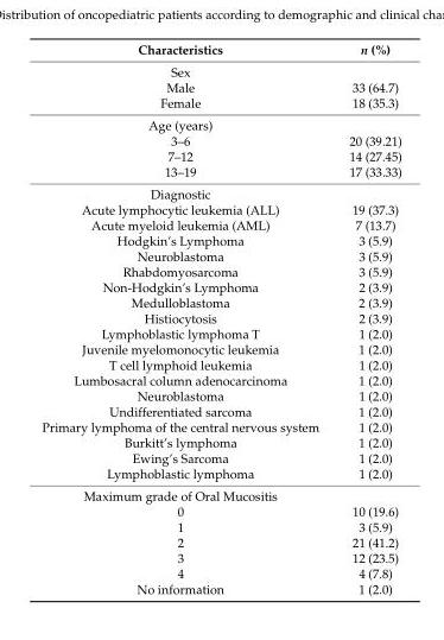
<table><thead><tr><td>Characteristics</td><td>n (%)</td></tr></thead><tbody><tr><td colspan="2">Sex</td></tr><tr><td>Male</td><td>33 (64.7)</td></tr><tr><td>Female</td><td>18 (35.3)</td></tr><tr><td colspan="2">Age (years)</td></tr><tr><td>3–6</td><td>20 (39.21)</td></tr><tr><td>7–12</td><td>14 (27.45)</td></tr><tr><td>13–19</td><td>17 (33.33)</td></tr><tr><td colspan="2">Diagnostic</td></tr><tr><td>Acute lymphocytic leukemia (ALL)</td><td>19 (37.3)</td></tr><tr><td>Acute myeloid leukemia (AML)</td><td>7 (13.7)</td></tr><tr><td>Hodgkin’s Lymphoma</td><td>3 (5.9)</td></tr><tr><td>Neuroblastoma</td><td>3 (5.9)</td></tr><tr><td>Rhabdomyosarcoma</td><td>3 (5.9)</td></tr><tr><td>Non-Hodgkin’s Lymphoma</td><td>2 (3.9)</td></tr><tr><td>Medulloblastoma</td><td>2 (3.9)</td></tr><tr><td>Histiocytosis</td><td>2 (3.9)</td></tr><tr><td>Lymphoblastic lymphoma T</td><td>1 (2.0)</td></tr><tr><td>Juvenile myelomonocytic leukemia</td><td>1 (2.0)</td></tr><tr><td>T cell lymphoid leukemia</td><td>1 (2.0)</td></tr><tr><td>Lumbosacral column adenocarcinoma</td><td>1 (2.0)</td></tr><tr><td>Neuroblastoma</td><td>1 (2.0)</td></tr><tr><td>Undifferentiated sarcoma</td><td>1 (2.0)</td></tr><tr><td>Primary lymphoma of the central nervous system</td><td>1 (2.0)</td></tr><tr><td>Burkitt’s lymphoma</td><td>1 (2.0)</td></tr><tr><td>Ewing’s Sarcoma</td><td>1 (2.0)</td></tr><tr><td>Lymphoblastic lymphoma</td><td>1 (2.0)</td></tr><tr><td colspan="2">Maximum grade of Oral Mucositis</td></tr><tr><td>0</td><td>10 (19.6)</td></tr><tr><td>1</td><td>3 (5.9)</td></tr><tr><td>2</td><td>21 (41.2)</td></tr><tr><td>3</td><td>12 (23.5)</td></tr><tr><td>4</td><td>4 (7.8)</td></tr><tr><td>No information</td><td>1 (2.0)</td></tr></tbody></table>